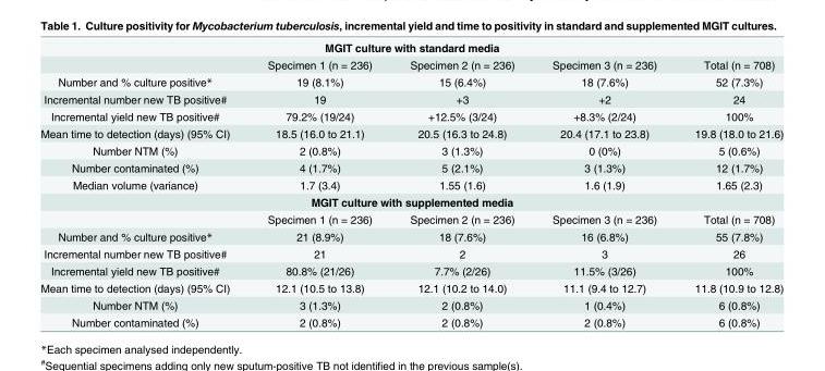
<table><tbody><tr><td colspan="5">MGIT culture with standard media</td></tr><tr><td></td><td>Specimen 1 (n = 236)</td><td>Specimen 2 (n = 236)</td><td>Specimen 3 (n = 236)</td><td>Total (n = 708)</td></tr><tr><td>Number and % culture positive*</td><td>19 (8.1%)</td><td>15 (6.4%)</td><td>18 (7.6%)</td><td>52 (7.3%)</td></tr><tr><td>Incremental number new TB positive#</td><td>19</td><td>+3</td><td>+2</td><td>24</td></tr><tr><td>Incremental yield new TB positive#</td><td>79.2% (19/24)</td><td>+12.5% (3/24)</td><td>+8.3% (2/24)</td><td>100%</td></tr><tr><td>Mean time to detection (days) (95% CI)</td><td>18.5 (16.0 to 21.1)</td><td>20.5 (16.3 to 24.8)</td><td>20.4 (17.1 to 23.8)</td><td>19.8 (18.0 to 21.6)</td></tr><tr><td>Number NTM (%)</td><td>2 (0.8%)</td><td>3 (1.3%)</td><td>0 (0%)</td><td>5 (0.6%)</td></tr><tr><td>Number contaminated (%)</td><td>4 (1.7%)</td><td>5 (2.1%)</td><td>3 (1.3%)</td><td>12 (1.7%)</td></tr><tr><td>Median volume (variance)</td><td>1.7 (3.4)</td><td>1.55 (1.6)</td><td>1.6 (1.9)</td><td>1.65 (2.3)</td></tr><tr><td colspan="5">MGIT culture with supplemented media</td></tr><tr><td></td><td>Specimen 1 (n = 236)</td><td>Specimen 2 (n = 236)</td><td>Specimen 3 (n = 236)</td><td>Total (n = 708)</td></tr><tr><td>Number and % culture positive*</td><td>21 (8.9%)</td><td>18 (7.6%)</td><td>16 (6.8%)</td><td>55 (7.8%)</td></tr><tr><td>Incremental number new TB positive#</td><td>21</td><td>2</td><td>3</td><td>26</td></tr><tr><td>Incremental yield new TB positive#</td><td>80.8% (21/26)</td><td>7.7% (2/26)</td><td>11.5% (3/26)</td><td>100%</td></tr><tr><td>Mean time to detection (days) (95% CI)</td><td>12.1 (10.5 to 13.8)</td><td>12.1 (10.2 to 14.0)</td><td>11.1 (9.4 to 12.7)</td><td>11.8 (10.9 to 12.8)</td></tr><tr><td>Number NTM (%)</td><td>3 (1.3%)</td><td>2 (0.8%)</td><td>1 (0.4%)</td><td>6 (0.8%)</td></tr><tr><td>Number contaminated (%)</td><td>2 (0.8%)</td><td>2 (0.8%)</td><td>2 (0.8%)</td><td>6 (0.8%)</td></tr></tbody></table>